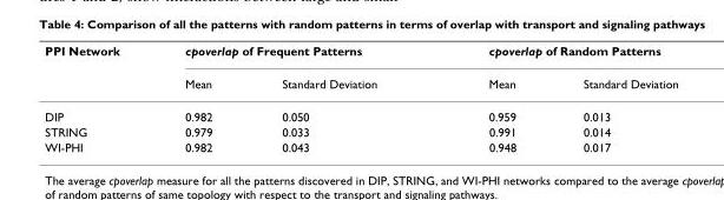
<table><thead><tr><td rowspan="2">PPI Network</td><td colspan="2">cpoverlap of Frequent Patterns</td><td colspan="2">cpoverlap of Random Patterns</td></tr><tr><td>Mean</td><td>Standard Deviation</td><td>Mean</td><td>Standard Deviation</td></tr></thead><tbody><tr><td>DIP</td><td>0.982</td><td>0.050</td><td>0.959</td><td>0.013</td></tr><tr><td>STRING</td><td>0.979</td><td>0.033</td><td>0.991</td><td>0.014</td></tr><tr><td>WI-PHI</td><td>0.982</td><td>0.043</td><td>0.948</td><td>0.017</td></tr></tbody></table>